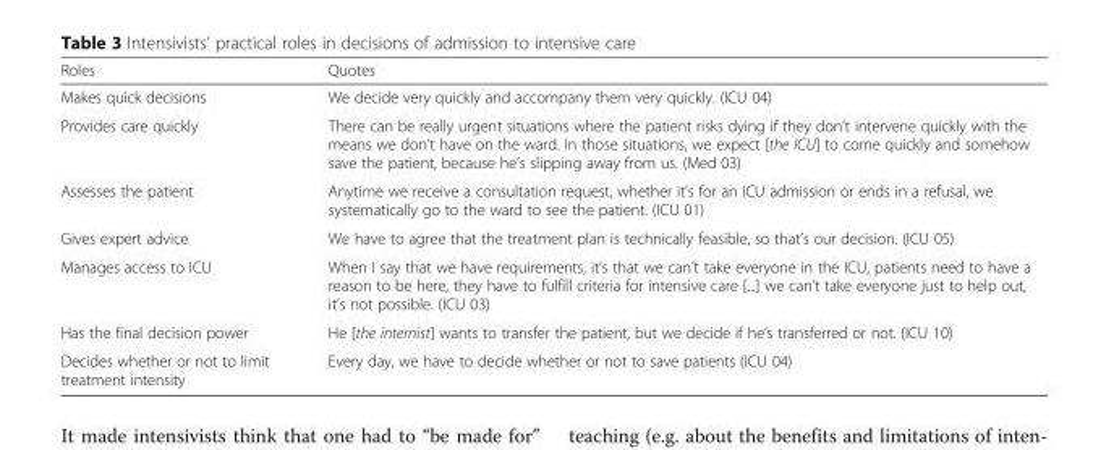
<table><thead><tr><td>Roles</td><td>Quotes</td></tr></thead><tbody><tr><td>Makes quick decisions</td><td>We decide very quickly and accompany them very quickly. (ICU 04)</td></tr><tr><td>Provides care quickly</td><td>There can be really urgent situations where the patient risks dying if they don’t intervene quickly with the means we don’t have on the ward. In those situations, we expect [the ICU] to come quickly and somehow save the patient, because he’s slipping away from us. (Med 03)</td></tr><tr><td>Assesses the patient</td><td>Anytime we receive a consultation request, whether it’s for an ICU admission or ends in a refusal, we systematically go to the ward to see the patient. (ICU 01)</td></tr><tr><td>Gives expert advice</td><td>We have to agree that the treatment plan is technically feasible, so that’s our decision. (ICU 05)</td></tr><tr><td>Manages access to ICU</td><td>When I say that we have requirements, it’s that we can’t take everyone in the ICU, patients need to have a reason to be here, they have to fulfill criteria for intensive care [...] we can’t take everyone just to help out, it’s not possible. (ICU 03)</td></tr><tr><td>Has the final decision power</td><td>He [the internist] wants to transfer the patient, but we decide if he’s transferred or not. (ICU 10)</td></tr><tr><td>Decides whether or not to limit treatment intensity</td><td>Every day, we have to decide whether or not to save patients (ICU 04)</td></tr></tbody></table>